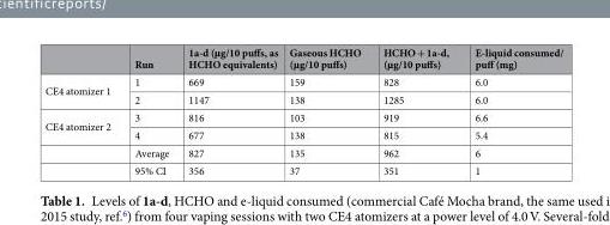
<table><thead><tr><td></td><td>Run</td><td>1a-d (µg/10 puffs, as HCHO equivalents)</td><td>Gaseous HCHO (µg/10 puffs)</td><td>HCHO + 1a-d, (µg/10 puffs)</td><td>E-liquid consumed/ puff (mg)</td></tr></thead><tbody><tr><td rowspan="2">CE4 atomizer 1</td><td>1</td><td>669</td><td>159</td><td>828</td><td>6.0</td></tr><tr><td>2</td><td>1147</td><td>138</td><td>1285</td><td>6.0</td></tr><tr><td rowspan="4">CE4 atomizer 2</td><td>3</td><td>816</td><td>103</td><td>919</td><td>6.6</td></tr><tr><td>4</td><td>677</td><td>138</td><td>815</td><td>5.4</td></tr><tr><td>Average</td><td>827</td><td>135</td><td>962</td><td>6</td></tr><tr><td>95% CI</td><td>356</td><td>37</td><td>351</td><td>1</td></tr></tbody></table>